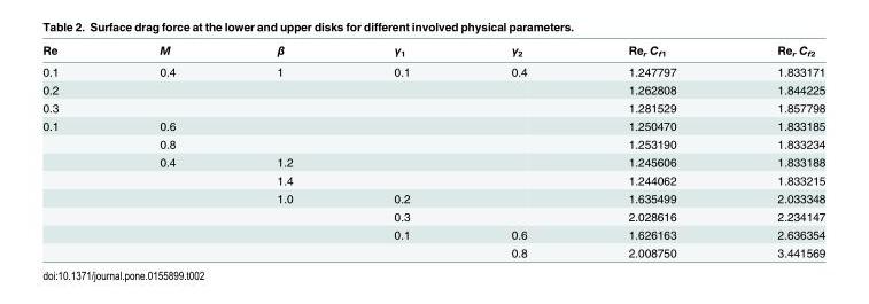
<table><thead><tr><td>Re</td><td>M</td><td>β</td><td>γ<sub>1</sub></td><td>γ<sub>2</sub></td><td>Re<sub>r</sub> C<sub>f1</sub></td><td>Re<sub>r</sub> C<sub>f2</sub></td></tr></thead><tbody><tr><td>0.1</td><td>0.4</td><td>1</td><td>0.1</td><td>0.4</td><td>1.247797</td><td>1.833171</td></tr><tr><td>0.2</td><td></td><td></td><td></td><td></td><td>1.262808</td><td>1.844225</td></tr><tr><td>0.3</td><td></td><td></td><td></td><td></td><td>1.281529</td><td>1.857798</td></tr><tr><td rowspan="8">0.1</td><td>0.6</td><td></td><td></td><td></td><td>1.250470</td><td>1.833185</td></tr><tr><td>0.8</td><td></td><td></td><td></td><td>1.253190</td><td>1.833234</td></tr><tr><td>0.4</td><td>1.2</td><td></td><td></td><td>1.245606</td><td>1.833188</td></tr><tr><td></td><td>1.4</td><td></td><td></td><td>1.244062</td><td>1.833215</td></tr><tr><td></td><td>1.0</td><td>0.2</td><td></td><td>1.635499</td><td>2.033348</td></tr><tr><td></td><td></td><td>0.3</td><td></td><td>2.028616</td><td>2.234147</td></tr><tr><td></td><td></td><td>0.1</td><td>0.6</td><td>1.626163</td><td>2.636354</td></tr><tr><td></td><td></td><td></td><td>0.8</td><td>2.008750</td><td>3.441569</td></tr></tbody></table>